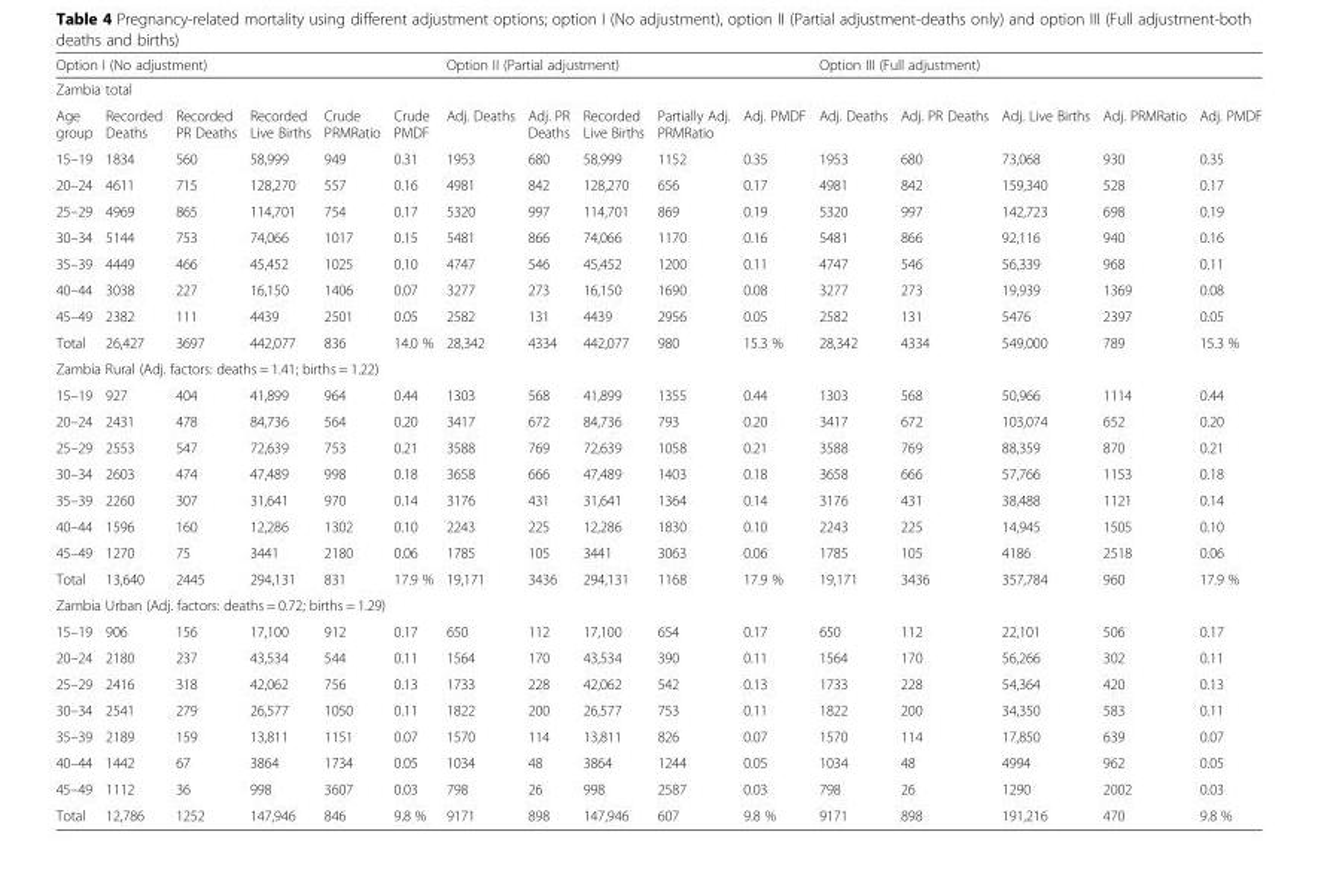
<table><thead><tr><td colspan="6">Option I (No adjustment)</td><td colspan="5">Option II (Partial adjustment)</td><td colspan="5">Option III (Full adjustment)</td></tr><tr><td colspan="16">Zambia total</td></tr><tr><td>Age group</td><td>Recorded Deaths</td><td>Recorded PR Deaths</td><td>Recorded Live Births</td><td>Crude PRMRatio</td><td>Crude PMDF</td><td>Adj. Deaths</td><td>Adj. PR Deaths</td><td>Recorded Live Births</td><td>Partially Adj. PRMRatio</td><td>Adj. PMDF</td><td>Adj. Deaths</td><td>Adj. PR Deaths</td><td>Adj. Live Births</td><td>Adj. PRMRatio</td><td>Adj. PMDF</td></tr></thead><tbody><tr><td>15–19</td><td>1834</td><td>560</td><td>58,999</td><td>949</td><td>0.31</td><td>1953</td><td>680</td><td>58,999</td><td>1152</td><td>0.35</td><td>1953</td><td>680</td><td>73,068</td><td>930</td><td>0.35</td></tr><tr><td>20–24</td><td>4611</td><td>715</td><td>128,270</td><td>557</td><td>0.16</td><td>4981</td><td>842</td><td>128,270</td><td>656</td><td>0.17</td><td>4981</td><td>842</td><td>159,340</td><td>528</td><td>0.17</td></tr><tr><td>25–29</td><td>4969</td><td>865</td><td>114,701</td><td>754</td><td>0.17</td><td>5320</td><td>997</td><td>114,701</td><td>869</td><td>0.19</td><td>5320</td><td>997</td><td>142,723</td><td>698</td><td>0.19</td></tr><tr><td>30–34</td><td>5144</td><td>753</td><td>74,066</td><td>1017</td><td>0.15</td><td>5481</td><td>866</td><td>74,066</td><td>1170</td><td>0.16</td><td>5481</td><td>866</td><td>92,116</td><td>940</td><td>0.16</td></tr><tr><td>35–39</td><td>4449</td><td>466</td><td>45,452</td><td>1025</td><td>0.10</td><td>4747</td><td>546</td><td>45,452</td><td>1200</td><td>0.11</td><td>4747</td><td>546</td><td>56,339</td><td>968</td><td>0.11</td></tr><tr><td>40–44</td><td>3038</td><td>227</td><td>16,150</td><td>1406</td><td>0.07</td><td>3277</td><td>273</td><td>16,150</td><td>1690</td><td>0.08</td><td>3277</td><td>273</td><td>19,939</td><td>1369</td><td>0.08</td></tr><tr><td>45–49</td><td>2382</td><td>111</td><td>4439</td><td>2501</td><td>0.05</td><td>2582</td><td>131</td><td>4439</td><td>2956</td><td>0.05</td><td>2582</td><td>131</td><td>5476</td><td>2397</td><td>0.05</td></tr><tr><td>Total</td><td>26,427</td><td>3697</td><td>442,077</td><td>836</td><td>14.0 %</td><td>28,342</td><td>4334</td><td>442,077</td><td>980</td><td>15.3 %</td><td>28,342</td><td>4334</td><td>549,000</td><td>789</td><td>15.3 %</td></tr><tr><td colspan="16">Zambia Rural (Adj. factors: deaths = 1.41; births = 1.22)</td></tr><tr><td>15–19</td><td>927</td><td>404</td><td>41,899</td><td>964</td><td>0.44</td><td>1303</td><td>568</td><td>41,899</td><td>1355</td><td>0.44</td><td>1303</td><td>568</td><td>50,966</td><td>1114</td><td>0.44</td></tr><tr><td>20–24</td><td>2431</td><td>478</td><td>84,736</td><td>564</td><td>0.20</td><td>3417</td><td>672</td><td>84,736</td><td>793</td><td>0.20</td><td>3417</td><td>672</td><td>103,074</td><td>652</td><td>0.20</td></tr><tr><td>25–29</td><td>2553</td><td>547</td><td>72,639</td><td>753</td><td>0.21</td><td>3588</td><td>769</td><td>72,639</td><td>1058</td><td>0.21</td><td>3588</td><td>769</td><td>88,359</td><td>870</td><td>0.21</td></tr><tr><td>30–34</td><td>2603</td><td>474</td><td>47,489</td><td>998</td><td>0.18</td><td>3658</td><td>666</td><td>47,489</td><td>1403</td><td>0.18</td><td>3658</td><td>666</td><td>57,766</td><td>1153</td><td>0.18</td></tr><tr><td>35–39</td><td>2260</td><td>307</td><td>31,641</td><td>970</td><td>0.14</td><td>3176</td><td>431</td><td>31,641</td><td>1364</td><td>0.14</td><td>3176</td><td>431</td><td>38,488</td><td>1121</td><td>0.14</td></tr><tr><td>40–44</td><td>1596</td><td>160</td><td>12,286</td><td>1302</td><td>0.10</td><td>2243</td><td>225</td><td>12,286</td><td>1830</td><td>0.10</td><td>2243</td><td>225</td><td>14,945</td><td>1505</td><td>0.10</td></tr><tr><td>45–49</td><td>1270</td><td>75</td><td>3441</td><td>2180</td><td>0.06</td><td>1785</td><td>105</td><td>3441</td><td>3063</td><td>0.06</td><td>1785</td><td>105</td><td>4186</td><td>2518</td><td>0.06</td></tr><tr><td>Total</td><td>13,640</td><td>2445</td><td>294,131</td><td>831</td><td>17.9 %</td><td>19,171</td><td>3436</td><td>294,131</td><td>1168</td><td>17.9 %</td><td>19,171</td><td>3436</td><td>357,784</td><td>960</td><td>17.9 %</td></tr><tr><td colspan="16">Zambia Urban (Adj. factors: deaths = 0.72; births = 1.29)</td></tr><tr><td>15–19</td><td>906</td><td>156</td><td>17,100</td><td>912</td><td>0.17</td><td>650</td><td>112</td><td>17,100</td><td>654</td><td>0.17</td><td>650</td><td>112</td><td>22,101</td><td>506</td><td>0.17</td></tr><tr><td>20–24</td><td>2180</td><td>237</td><td>43,534</td><td>544</td><td>0.11</td><td>1564</td><td>170</td><td>43,534</td><td>390</td><td>0.11</td><td>1564</td><td>170</td><td>56,266</td><td>302</td><td>0.11</td></tr><tr><td>25–29</td><td>2416</td><td>318</td><td>42,062</td><td>756</td><td>0.13</td><td>1733</td><td>228</td><td>42,062</td><td>542</td><td>0.13</td><td>1733</td><td>228</td><td>54,364</td><td>420</td><td>0.13</td></tr><tr><td>30–34</td><td>2541</td><td>279</td><td>26,577</td><td>1050</td><td>0.11</td><td>1822</td><td>200</td><td>26,577</td><td>753</td><td>0.11</td><td>1822</td><td>200</td><td>34,350</td><td>583</td><td>0.11</td></tr><tr><td>35–39</td><td>2189</td><td>159</td><td>13,811</td><td>1151</td><td>0.07</td><td>1570</td><td>114</td><td>13,811</td><td>826</td><td>0.07</td><td>1570</td><td>114</td><td>17,850</td><td>639</td><td>0.07</td></tr><tr><td>40–44</td><td>1442</td><td>67</td><td>3864</td><td>1734</td><td>0.05</td><td>1034</td><td>48</td><td>3864</td><td>1244</td><td>0.05</td><td>1034</td><td>48</td><td>4994</td><td>962</td><td>0.05</td></tr><tr><td>45–49</td><td>1112</td><td>36</td><td>998</td><td>3607</td><td>0.03</td><td>798</td><td>26</td><td>998</td><td>2587</td><td>0.03</td><td>798</td><td>26</td><td>1290</td><td>2002</td><td>0.03</td></tr><tr><td>Total</td><td>12,786</td><td>1252</td><td>147,946</td><td>846</td><td>9.8 %</td><td>9171</td><td>898</td><td>147,946</td><td>607</td><td>9.8 %</td><td>9171</td><td>898</td><td>191,216</td><td>470</td><td>9.8 %</td></tr></tbody></table>